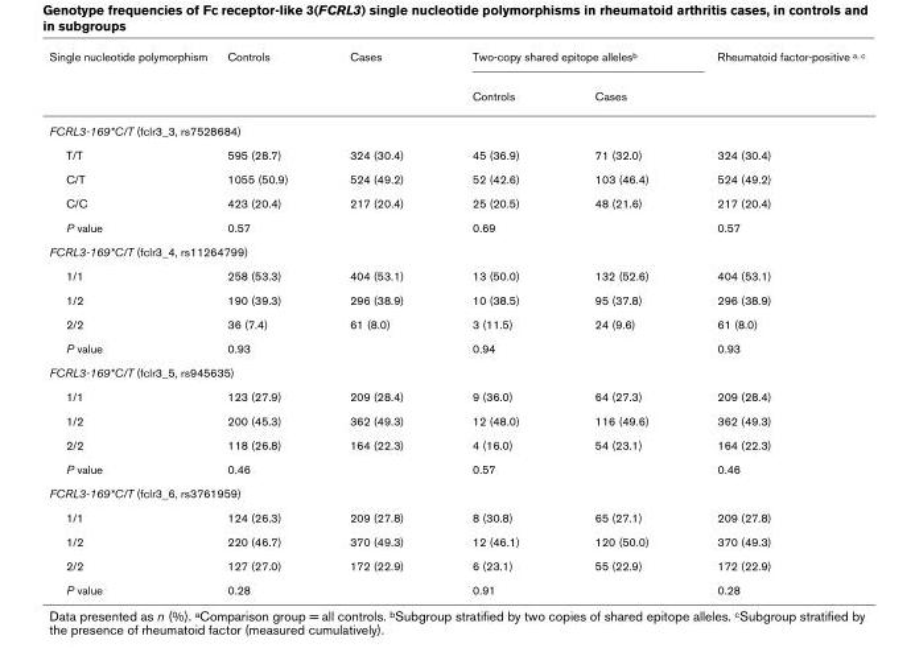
<table><thead><tr><td rowspan="2">Single nucleotide polymorphism</td><td rowspan="2">Controls</td><td rowspan="2">Cases</td><td colspan="2">Two-copy shared epitope allelesb</td><td rowspan="2">Rheumatoid factor-positive a, c</td></tr><tr><td>Controls</td><td>Cases</td></tr></thead><tbody><tr><td colspan="6">FCRL3-169*C/T (fclr3_3, rs7528684)</td></tr><tr><td>T/T</td><td>595 (28.7)</td><td>324 (30.4)</td><td>45 (36.9)</td><td>71 (32.0)</td><td>324 (30.4)</td></tr><tr><td>C/T</td><td>1055 (50.9)</td><td>524 (49.2)</td><td>52 (42.6)</td><td>103 (46.4)</td><td>524 (49.2)</td></tr><tr><td>C/C</td><td>423 (20.4)</td><td>217 (20.4)</td><td>25 (20.5)</td><td>48 (21.6)</td><td>217 (20.4)</td></tr><tr><td>P value</td><td>0.57</td><td></td><td>0.69</td><td></td><td>0.57</td></tr><tr><td colspan="6">FCRL3-169*C/T (fclr3_4, rs11264799)</td></tr><tr><td>1/1</td><td>258 (53.3)</td><td>404 (53.1)</td><td>13 (50.0)</td><td>132 (52.6)</td><td>404 (53.1)</td></tr><tr><td>1/2</td><td>190 (39.3)</td><td>296 (38.9)</td><td>10 (38.5)</td><td>95 (37.8)</td><td>296 (38.9)</td></tr><tr><td>2/2</td><td>36 (7.4)</td><td>61 (8.0)</td><td>3 (11.5)</td><td>24 (9.6)</td><td>61 (8.0)</td></tr><tr><td>P value</td><td>0.93</td><td></td><td>0.94</td><td></td><td>0.93</td></tr><tr><td colspan="6">FCRL3-169*C/T (fclr3_5, rs945635)</td></tr><tr><td>1/1</td><td>123 (27.9)</td><td>209 (28.4)</td><td>9 (36.0)</td><td>64 (27.3)</td><td>209 (28.4)</td></tr><tr><td>1/2</td><td>200 (45.3)</td><td>362 (49.3)</td><td>12 (48.0)</td><td>116 (49.6)</td><td>362 (49.3)</td></tr><tr><td>2/2</td><td>118 (26.8)</td><td>164 (22.3)</td><td>4 (16.0)</td><td>54 (23.1)</td><td>164 (22.3)</td></tr><tr><td>P value</td><td>0.46</td><td></td><td>0.57</td><td></td><td>0.46</td></tr><tr><td colspan="6">FCRL3-169*C/T (fclr3_6, rs3761959)</td></tr><tr><td>1/1</td><td>124 (26.3)</td><td>209 (27.8)</td><td>8 (30.8)</td><td>65 (27.1)</td><td>209 (27.8)</td></tr><tr><td>1/2</td><td>220 (46.7)</td><td>370 (49.3)</td><td>12 (46.1)</td><td>120 (50.0)</td><td>370 (49.3)</td></tr><tr><td>2/2</td><td>127 (27.0)</td><td>172 (22.9)</td><td>6 (23.1)</td><td>55 (22.9)</td><td>172 (22.9)</td></tr><tr><td>P value</td><td>0.28</td><td></td><td>0.91</td><td></td><td>0.28</td></tr></tbody></table>